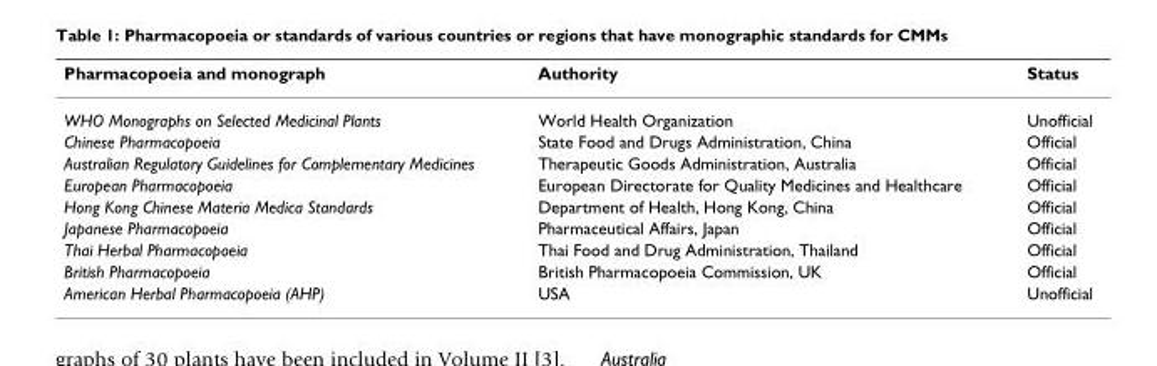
<table><thead><tr><td>Pharmacopoeia and monograph</td><td>Authority</td><td>Status</td></tr></thead><tbody><tr><td>WHO Monographs on Selected Medicinal Plants</td><td>World Health Organization</td><td>Unofficial</td></tr><tr><td>Chinese Pharmacopoeia</td><td>State Food and Drugs Administration, China</td><td>Official</td></tr><tr><td>Australian Regulatory Guidelines for Complementary Medicines</td><td>Therapeutic Goods Administration, Australia</td><td>Official</td></tr><tr><td>European Pharmacopoeia</td><td>European Directorate for Quality Medicines and Healthcare</td><td>Official</td></tr><tr><td>Hong Kong Chinese Materia Medica Standards</td><td>Department of Health, Hong Kong, China</td><td>Official</td></tr><tr><td>Japanese Pharmacopoeia</td><td>Pharmaceutical Affairs, Japan</td><td>Official</td></tr><tr><td>Thai Herbal Pharmacopoeia</td><td>Thai Food and Drug Administration, Thailand</td><td>Official</td></tr><tr><td>British Pharmacopoeia</td><td>British Pharmacopoeia Commission, UK</td><td>Official</td></tr><tr><td>American Herbal Pharmacopoeia (AHP)</td><td>USA</td><td>Unofficial</td></tr></tbody></table>